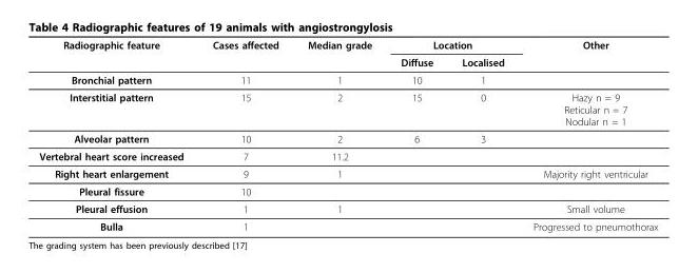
<table><thead><tr><td rowspan="2">Radiographic feature</td><td rowspan="2">Cases affected</td><td rowspan="2">Median grade</td><td colspan="2">Location</td><td rowspan="2">Other</td></tr><tr><td>Diffuse</td><td>Localised</td></tr></thead><tbody><tr><td>Bronchial pattern</td><td>11</td><td>1</td><td>10</td><td>1</td><td></td></tr><tr><td>Interstitial pattern</td><td>15</td><td>2</td><td>15</td><td>0</td><td>Hazy n = 9 Reticular n = 7 Nodular n = 1</td></tr><tr><td>Alveolar pattern</td><td>10</td><td>2</td><td>6</td><td>3</td><td></td></tr><tr><td>Vertebral heart score increased</td><td>7</td><td>11.2</td><td></td><td></td><td></td></tr><tr><td>Right heart enlargement</td><td>9</td><td>1</td><td></td><td></td><td>Majority right ventricular</td></tr><tr><td>Pleural fissure</td><td>10</td><td></td><td></td><td></td><td></td></tr><tr><td>Pleural effusion</td><td>1</td><td>1</td><td></td><td></td><td>Small volume</td></tr><tr><td>Bulla</td><td>1</td><td></td><td></td><td></td><td>Progressed to pneumothorax</td></tr></tbody></table>